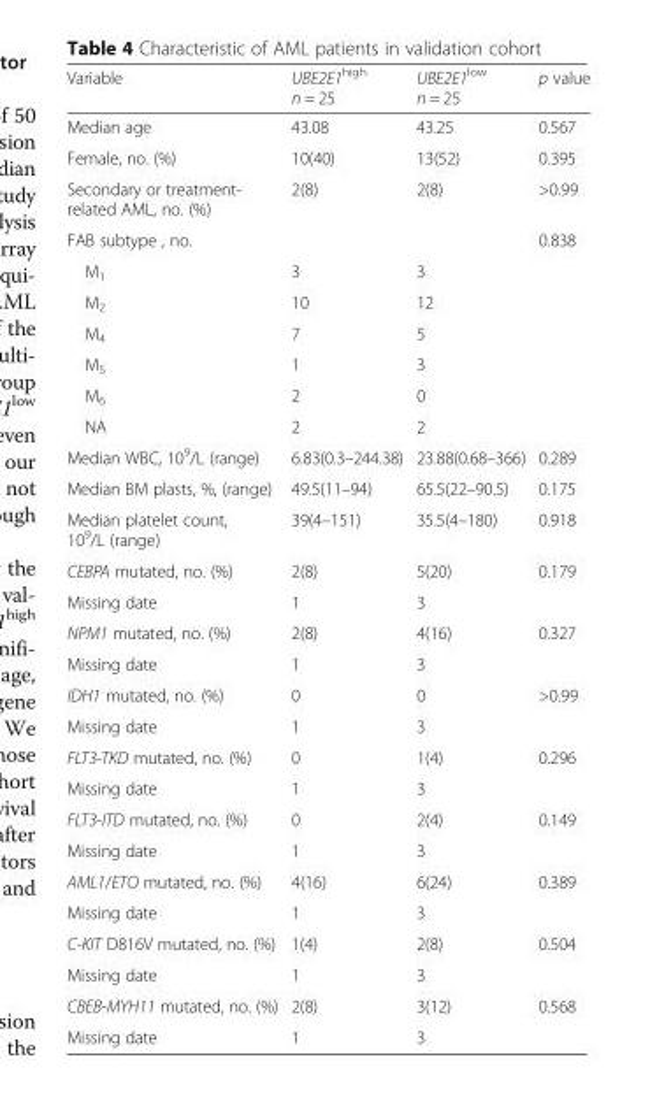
<table><thead><tr><td>Variable</td><td>UBE2E1<sup>high</sup> n = 25</td><td>UBE2E1<sup>low</sup> n = 25</td><td>p value</td></tr></thead><tbody><tr><td>Median age</td><td>43.08</td><td>43.25</td><td>0.567</td></tr><tr><td>Female, no. (%)</td><td>10(40)</td><td>13(52)</td><td>0.395</td></tr><tr><td>Secondary or treatment- related AML, no. (%)</td><td>2(8)</td><td>2(8)</td><td>&gt;0.99</td></tr><tr><td>FAB subtype , no.</td><td></td><td></td><td>0.838</td></tr><tr><td>M<sub>1</sub></td><td>3</td><td>3</td><td></td></tr><tr><td>M<sub>2</sub></td><td>10</td><td>12</td><td></td></tr><tr><td>M<sub>4</sub></td><td>7</td><td>5</td><td></td></tr><tr><td>M<sub>5</sub></td><td>1</td><td>3</td><td></td></tr><tr><td>M<sub>6</sub></td><td>2</td><td>0</td><td></td></tr><tr><td>NA</td><td>2</td><td>2</td><td></td></tr><tr><td>Median WBC, 10<sup>9</sup>/L (range)</td><td>6.83(0.3–244.38)</td><td>23.88(0.68–366)</td><td>0.289</td></tr><tr><td>Median BM plasts, %, (range)</td><td>49.5(11–94)</td><td>65.5(22–90.5)</td><td>0.175</td></tr><tr><td>Median platelet count, 10<sup>9</sup>/L (range)</td><td>39(4–151)</td><td>35.5(4–180)</td><td>0.918</td></tr><tr><td>CEBPA mutated, no. (%)</td><td>2(8)</td><td>5(20)</td><td>0.179</td></tr><tr><td>Missing date</td><td>1</td><td>3</td><td></td></tr><tr><td>NPM1 mutated, no. (%)</td><td>2(8)</td><td>4(16)</td><td>0.327</td></tr><tr><td>Missing date</td><td>1</td><td>3</td><td></td></tr><tr><td>IDH1 mutated, no. (%)</td><td>0</td><td>0</td><td>&gt;0.99</td></tr><tr><td>Missing date</td><td>1</td><td>3</td><td></td></tr><tr><td>FLT3-TKD mutated, no. (%)</td><td>0</td><td>1(4)</td><td>0.296</td></tr><tr><td>Missing date</td><td>1</td><td>3</td><td></td></tr><tr><td>FLT3-ITD mutated, no. (%)</td><td>0</td><td>2(4)</td><td>0.149</td></tr><tr><td>Missing date</td><td>1</td><td>3</td><td></td></tr><tr><td>AML1/ETO mutated, no. (%)</td><td>4(16)</td><td>6(24)</td><td>0.389</td></tr><tr><td>Missing date</td><td>1</td><td>3</td><td></td></tr><tr><td>C-KIT D816V mutated, no. (%)</td><td>1(4)</td><td>2(8)</td><td>0.504</td></tr><tr><td>Missing date</td><td>1</td><td>3</td><td></td></tr><tr><td>CBEB-MYH11 mutated, no. (%)</td><td>2(8)</td><td>3(12)</td><td>0.568</td></tr><tr><td>Missing date</td><td>1</td><td>3</td><td></td></tr></tbody></table>